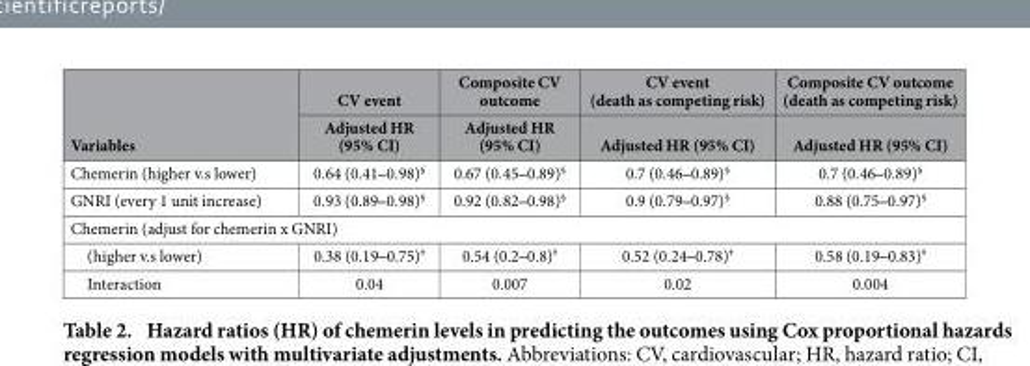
<table><thead><tr><td rowspan="2">Variables</td><td rowspan="2">CV event Adjusted HR (95% CI)</td><td rowspan="2">Composite CV outcome Adjusted HR (95% CI)</td><td rowspan="2">CV event (death as competing risk) Adjusted HR (95% CI)</td><td rowspan="2">Composite CV outcome (death as competing risk) Adjusted HR (95% CI)</td></tr><tr></tr></thead><tbody><tr><td>Chemerin (higher v.s lower)</td><td>0.64 (0.41‒ 0.98)§</td><td>0.67 (0.45‒ 0.89)§</td><td>0.7 (0.46‒ 0.89)§</td><td>0.7 (0.46‒ 0.89)§</td></tr><tr><td>GNRI (every 1 unit increase)</td><td>0.93 (0.89‒ 0.98)§</td><td>0.92 (0.82‒ 0.98)§</td><td>0.9 (0.79‒ 0.97)§</td><td>0.88 (0.75‒ 0.97)§</td></tr><tr><td colspan="5">Chemerin (adjust for chemerin x GNRI)</td></tr><tr><td>(higher v.s lower)</td><td>0.38 (0.19‒ 0.75)ǂ</td><td>0.54 (0.2‒ 0.8)ǂ</td><td>0.52 (0.24‒ 0.78)ǂ</td><td>0.58 (0.19‒ 0.83)ǂ</td></tr><tr><td>Interaction</td><td>0.04</td><td>0.007</td><td>0.02</td><td>0.004</td></tr></tbody></table>